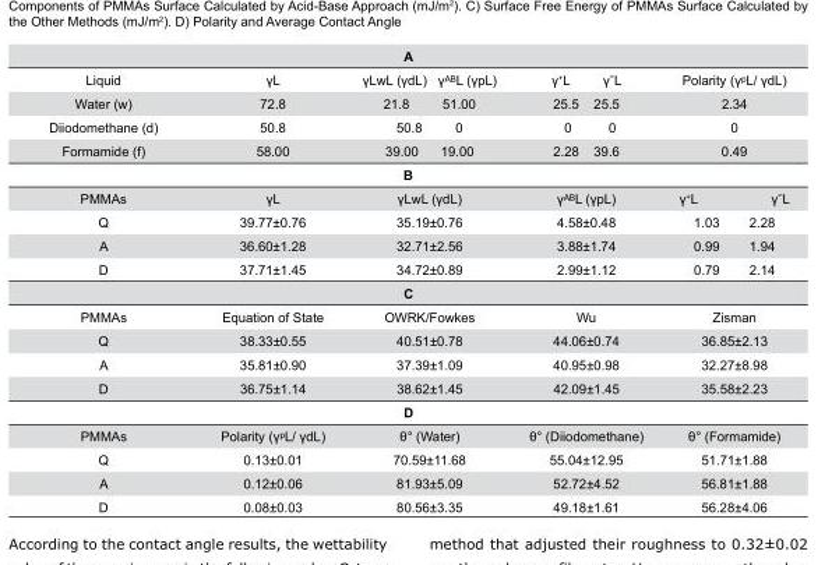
<table><thead><tr><td colspan="8">A</td></tr></thead><tbody><tr><td>Liquid</td><td>γL</td><td>γLwL (γdL)</td><td>γ<sup>ᴬᴮ</sup>L (γpL)</td><td>γ+L</td><td>γˉL</td><td colspan="2">Polarity (γ<sup>ᵖ</sup>L/ γdL)</td></tr><tr><td>Water (w)</td><td>72.8</td><td>21.8</td><td>51.00</td><td>25.5</td><td>25.5</td><td colspan="2">2.34</td></tr><tr><td>Diiodomethane (d)</td><td>50.8</td><td>50.8</td><td>0</td><td>0</td><td>0</td><td colspan="2">0</td></tr><tr><td>Formamide (f)</td><td>58.00</td><td>39.00</td><td>19.00</td><td>2.28</td><td>39.6</td><td colspan="2">0.49</td></tr><tr><td colspan="8">B</td></tr><tr><td>PMMAs</td><td>γL</td><td colspan="2">γLwL (γdL)</td><td colspan="2">γ<sup>ᴬᴮ</sup>L (γpL)</td><td>γ+L</td><td>γˉL</td></tr><tr><td>Q</td><td>39.77±0.76</td><td colspan="2">35.19±0.76</td><td colspan="2">4.58±0.48</td><td>1.03</td><td>2.28</td></tr><tr><td>A</td><td>36.60±1.28</td><td colspan="2">32.71±2.56</td><td colspan="2">3.88±1.74</td><td>0.99</td><td>1.94</td></tr><tr><td>D</td><td>37.71±1.45</td><td colspan="2">34.72±0.89</td><td colspan="2">2.99±1.12</td><td>0.79</td><td>2.14</td></tr><tr><td colspan="8">C</td></tr><tr><td>PMMAs</td><td>Equation of State</td><td colspan="2">OWRK/Fowkes</td><td colspan="2">Wu</td><td colspan="2">Zisman</td></tr><tr><td>Q</td><td>38.33±0.55</td><td colspan="2">40.51±0.78</td><td colspan="2">44.06±0.74</td><td colspan="2">36.85±2.13</td></tr><tr><td>A</td><td>35.81±0.90</td><td colspan="2">37.39±1.09</td><td colspan="2">40.95±0.98</td><td colspan="2">32.27±8.98</td></tr><tr><td>D</td><td>36.75±1.14</td><td colspan="2">38.62±1.45</td><td colspan="2">42.09±1.45</td><td colspan="2">35.58±2.23</td></tr><tr><td colspan="8">D</td></tr><tr><td>PMMAs</td><td>Polarity (γ<sup>ᵖ</sup>L/ γdL)</td><td colspan="2">θ° (Water)</td><td colspan="2">θ° (Diiodomethane)</td><td colspan="2">θ° (Formamide)</td></tr><tr><td>Q</td><td>0.13±0.01</td><td colspan="2">70.59±11.68</td><td colspan="2">55.04±12.95</td><td colspan="2">51.71±1.88</td></tr><tr><td>A</td><td>0.12±0.06</td><td colspan="2">81.93±5.09</td><td colspan="2">52.72±4.52</td><td colspan="2">56.81±1.88</td></tr><tr><td>D</td><td>0.08±0.03</td><td colspan="2">80.56±3.35</td><td colspan="2">49.18±1.61</td><td colspan="2">56.28±4.06</td></tr></tbody></table>